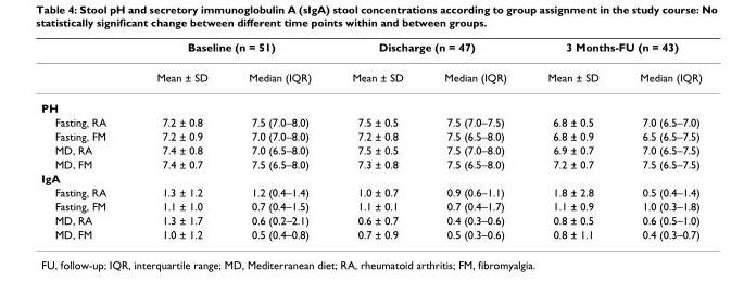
<table><thead><tr><td rowspan="2"></td><td colspan="2">Baseline (n = 51)</td><td colspan="2">Discharge (n = 47)</td><td colspan="2">3 Months-FU (n = 43)</td></tr><tr><td>Mean ± SD</td><td>Median (IQR)</td><td>Mean ± SD</td><td>Median (IQR)</td><td>Mean ± SD</td><td>Median (IQR)</td></tr></thead><tbody><tr><td colspan="7">PH</td></tr><tr><td>Fasting, RA</td><td>7.2 ± 0.8</td><td>7.5 (7.0–8.0)</td><td>7.5 ± 0.5</td><td>7.5 (7.0–7.5)</td><td>6.8 ± 0.5</td><td>7.0 (6.5–7.0)</td></tr><tr><td>Fasting, FM</td><td>7.2 ± 0.9</td><td>7.0 (7.0–8.0)</td><td>7.2 ± 0.8</td><td>7.5 (6.5–8.0)</td><td>6.8 ± 0.9</td><td>6.5 (6.5–7.5)</td></tr><tr><td>MD, RA</td><td>7.4 ± 0.8</td><td>7.0 (6.5–8.0)</td><td>7.5 ± 0.5</td><td>7.5 (7.0–8.0)</td><td>6.9 ± 0.7</td><td>7.0 (6.5–7.5)</td></tr><tr><td>MD, FM</td><td>7.4 ± 0.7</td><td>7.5 (6.5–8.0)</td><td>7.3 ± 0.8</td><td>7.5 (6.5–8.0)</td><td>7.2 ± 0.7</td><td>7.5 (6.5–7.5)</td></tr><tr><td colspan="7">IgA</td></tr><tr><td>Fasting, RA</td><td>1.3 ± 1.2</td><td>1.2 (0.4–1.4)</td><td>1.0 ± 0.7</td><td>0.9 (0.6–1.1)</td><td>1.8 ± 2.8</td><td>0.5 (0.4–1.4)</td></tr><tr><td>Fasting, FM</td><td>1.1 ± 1.0</td><td>0.7 (0.4–1.5)</td><td>1.1 ± 0.1</td><td>0.7 (0.4–1.7)</td><td>1.1 ± 0.9</td><td>1.0 (0.3–1.8)</td></tr><tr><td>MD, RA</td><td>1.3 ± 1.7</td><td>0.6 (0.2–2.1)</td><td>0.6 ± 0.7</td><td>0.4 (0.3–0.6)</td><td>0.8 ± 0.5</td><td>0.6 (0.5–1.0)</td></tr><tr><td>MD, FM</td><td>1.0 ± 1.2</td><td>0.5 (0.4–0.8)</td><td>0.7 ± 0.9</td><td>0.5 (0.3–0.6)</td><td>0.8 ± 1.1</td><td>0.4 (0.3–0.7)</td></tr></tbody></table>